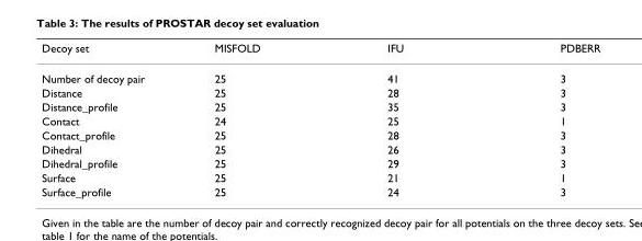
<table><thead><tr><td>Decoy set</td><td>MISFOLD</td><td>IFU</td><td>PDBERR</td></tr></thead><tbody><tr><td>Number of decoy pair</td><td>25</td><td>41</td><td>3</td></tr><tr><td>Distance</td><td>25</td><td>28</td><td>3</td></tr><tr><td>Distance_profile</td><td>25</td><td>35</td><td>3</td></tr><tr><td>Contact</td><td>24</td><td>25</td><td>1</td></tr><tr><td>Contact_profile</td><td>25</td><td>28</td><td>3</td></tr><tr><td>Dihedral</td><td>25</td><td>26</td><td>3</td></tr><tr><td>Dihedral_profile</td><td>25</td><td>29</td><td>3</td></tr><tr><td>Surface</td><td>25</td><td>21</td><td>1</td></tr><tr><td>Surface_profile</td><td>25</td><td>24</td><td>3</td></tr></tbody></table>